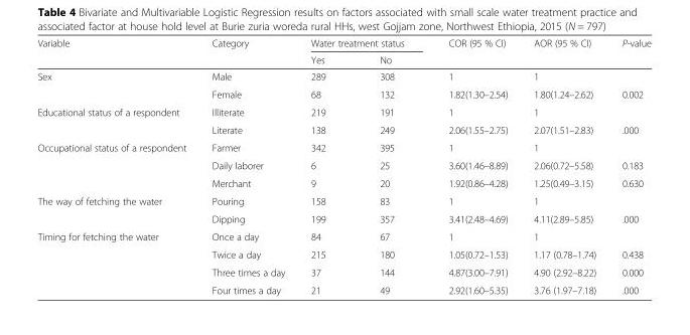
<table><thead><tr><td rowspan="2">Variable</td><td rowspan="2">Category</td><td colspan="2">Water treatment status</td><td rowspan="2">COR (95 % CI)</td><td rowspan="2">AOR (95 % CI)</td><td rowspan="2">P-value</td></tr><tr><td>Yes</td><td>No</td></tr></thead><tbody><tr><td rowspan="2">Sex</td><td>Male</td><td>289</td><td>308</td><td>1</td><td>1</td><td></td></tr><tr><td>Female</td><td>68</td><td>132</td><td>1.82(1.30–2.54)</td><td>1.80(1.24–2.62)</td><td>0.002</td></tr><tr><td rowspan="2">Educational status of a respondent</td><td>Illiterate</td><td>219</td><td>191</td><td>1</td><td>1</td><td></td></tr><tr><td>Literate</td><td>138</td><td>249</td><td>2.06(1.55–2.75)</td><td>2.07(1.51–2.83)</td><td>.000</td></tr><tr><td rowspan="3">Occupational status of a respondent</td><td>Farmer</td><td>342</td><td>395</td><td>1</td><td>1</td><td></td></tr><tr><td>Daily laborer</td><td>6</td><td>25</td><td>3.60(1.46–8.89)</td><td>2.06(0.72–5.58)</td><td>0.183</td></tr><tr><td>Merchant</td><td>9</td><td>20</td><td>1.92(0.86–4.28)</td><td>1.25(0.49–3.15)</td><td>0.630</td></tr><tr><td rowspan="2">The way of fetching the water</td><td>Pouring</td><td>158</td><td>83</td><td>1</td><td>1</td><td></td></tr><tr><td>Dipping</td><td>199</td><td>357</td><td>3.41(2.48–4.69)</td><td>4.11(2.89–5.85)</td><td>.000</td></tr><tr><td rowspan="4">Timing for fetching the water</td><td>Once a day</td><td>84</td><td>67</td><td>1</td><td>1</td><td></td></tr><tr><td>Twice a day</td><td>215</td><td>180</td><td>1.05(0.72–1.53)</td><td>1.17 (0.78–1.74)</td><td>0.438</td></tr><tr><td>Three times a day</td><td>37</td><td>144</td><td>4.87(3.00–7.91)</td><td>4.90 (2.92–8.22)</td><td>0.000</td></tr><tr><td>Four times a day</td><td>21</td><td>49</td><td>2.92(1.60–5.35)</td><td>3.76 (1.97–7.18)</td><td>.000</td></tr></tbody></table>